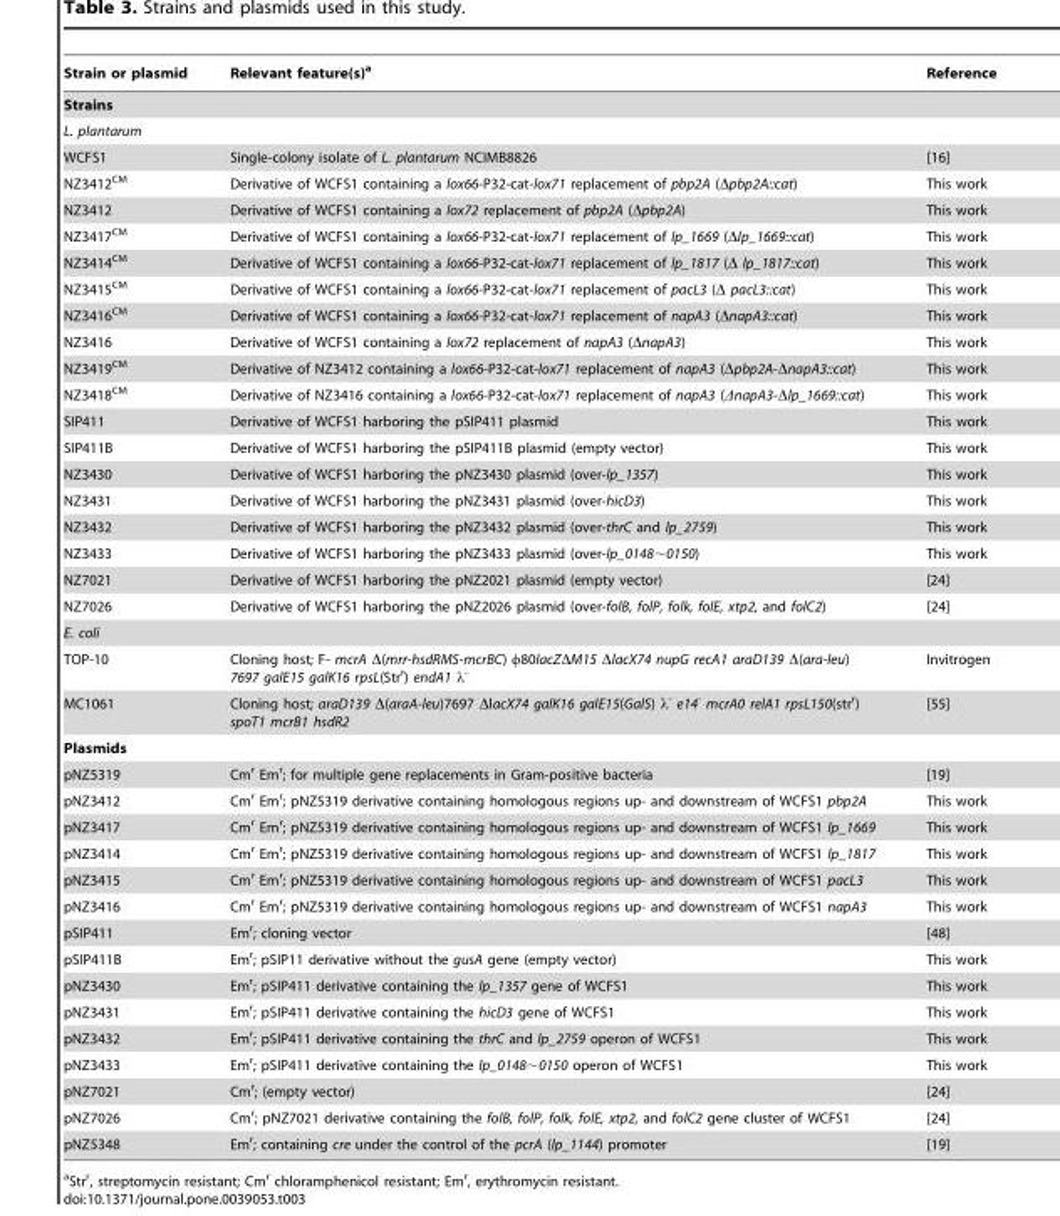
<table><thead><tr><td>Strain or plasmid</td><td>Relevant feature(s)<sup>a</sup></td><td>Reference</td></tr></thead><tbody><tr><td colspan="3">Strains</td></tr><tr><td colspan="3">L. plantarum</td></tr><tr><td>WCFS1</td><td>Single-colony isolate of L. plantarum NCIMB8826</td><td>[16]</td></tr><tr><td>NZ3412<sup>CM</sup></td><td>Derivative of WCFS1 containing a lox66-P32-cat-lox71 replacement of pbp2A (Δpbp2A::cat)</td><td>This work</td></tr><tr><td>NZ3412</td><td>Derivative of WCFS1 containing a lox72 replacement of pbp2A (Δpbp2A)</td><td>This work</td></tr><tr><td>NZ3417<sup>CM</sup></td><td>Derivative of WCFS1 containing a lox66-P32-cat-lox71 replacement of lp_1669 (Δlp_1669::cat)</td><td>This work</td></tr><tr><td>NZ3414<sup>CM</sup></td><td>Derivative of WCFS1 containing a lox66-P32-cat-lox71 replacement of lp_1817 (Δ lp_1817::cat)</td><td>This work</td></tr><tr><td>NZ3415<sup>CM</sup></td><td>Derivative of WCFS1 containing a lox66-P32-cat-lox71 replacement of pacL3 (Δ pacL3::cat)</td><td>This work</td></tr><tr><td>NZ3416<sup>CM</sup></td><td>Derivative of WCFS1 containing a lox66-P32-cat-lox71 replacement of napA3 (ΔnapA3::cat)</td><td>This work</td></tr><tr><td>NZ3416</td><td>Derivative of WCFS1 containing a lox72 replacement of napA3 (ΔnapA3)</td><td>This work</td></tr><tr><td>NZ3419<sup>CM</sup></td><td>Derivative of NZ3412 containing a lox66-P32-cat-lox71 replacement of napA3 (Δpbp2A-ΔnapA3::cat)</td><td>This work</td></tr><tr><td>NZ3418<sup>CM</sup></td><td>Derivative of NZ3416 containing a lox66-P32-cat-lox71 replacement of napA3 (ΔnapA3-Δlp_1669::cat)</td><td>This work</td></tr><tr><td>SIP411</td><td>Derivative of WCFS1 harboring the pSIP411 plasmid</td><td>This work</td></tr><tr><td>SIP411B</td><td>Derivative of WCFS1 harboring the pSIP411B plasmid (empty vector)</td><td>This work</td></tr><tr><td>NZ3430</td><td>Derivative of WCFS1 harboring the pNZ3430 plasmid (over-lp_1357)</td><td>This work</td></tr><tr><td>NZ3431</td><td>Derivative of WCFS1 harboring the pNZ3431 plasmid (over-hicD3)</td><td>This work</td></tr><tr><td>NZ3432</td><td>Derivative of WCFS1 harboring the pNZ3432 plasmid (over-thrC and lp_2759)</td><td>This work</td></tr><tr><td>NZ3433</td><td>Derivative of WCFS1 harboring the pNZ3433 plasmid (over-lp_0148∼0150)</td><td>This work</td></tr><tr><td>NZ7021</td><td>Derivative of WCFS1 harboring the pNZ2021 plasmid (empty vector)</td><td>[24]</td></tr><tr><td>NZ7026</td><td>Derivative of WCFS1 harboring the pNZ2026 plasmid (over-folB, folP, folk, folE, xtp2, and folC2)</td><td>[24]</td></tr><tr><td colspan="3">E. coli</td></tr><tr><td>TOP-10</td><td>Cloning host; F- mcrA Δ(mrr-hsdRMS-mcrBC) φ80lacZΔM15 ΔlacX74 nupG recA1 araD139 Δ(ara-leu) 7697 galE15 galK16 rpsL(Str<sup>r</sup>) endA1 λ<sup>-</sup></td><td>Invitrogen</td></tr><tr><td>MC1061</td><td>Cloning host; araD139 Δ(araA-leu)7697 ΔlacX74 galK16 galE15(GalS) λ<sup>-</sup> e14<sup>-</sup> mcrA0 relA1 rpsL150(str<sup>r</sup>) spoT1 mcrB1 hsdR2</td><td>[55]</td></tr><tr><td colspan="3">Plasmids</td></tr><tr><td>pNZ5319</td><td>Cm<sup>r</sup> Em<sup>r</sup>; for multiple gene replacements in Gram-positive bacteria</td><td>[19]</td></tr><tr><td>pNZ3412</td><td>Cm<sup>r</sup> Em<sup>r</sup>; pNZ5319 derivative containing homologous regions up- and downstream of WCFS1 pbp2A</td><td>This work</td></tr><tr><td>pNZ3417</td><td>Cm<sup>r</sup> Em<sup>r</sup>; pNZ5319 derivative containing homologous regions up- and downstream of WCFS1 lp_1669</td><td>This work</td></tr><tr><td>pNZ3414</td><td>Cm<sup>r</sup> Em<sup>r</sup>; pNZ5319 derivative containing homologous regions up- and downstream of WCFS1 lp_1817</td><td>This work</td></tr><tr><td>pNZ3415</td><td>Cm<sup>r</sup> Em<sup>r</sup>; pNZ5319 derivative containing homologous regions up- and downstream of WCFS1 pacL3</td><td>This work</td></tr><tr><td>pNZ3416</td><td>Cm<sup>r</sup> Em<sup>r</sup>; pNZ5319 derivative containing homologous regions up- and downstream of WCFS1 napA3</td><td>This work</td></tr><tr><td>pSIP411</td><td>Em<sup>r</sup>; cloning vector</td><td>[48]</td></tr><tr><td>pSIP411B</td><td>Em<sup>r</sup>; pSIP11 derivative without the gusA gene (empty vector)</td><td>This work</td></tr><tr><td>pNZ3430</td><td>Em<sup>r</sup>; pSIP411 derivative containing the lp_1357 gene of WCFS1</td><td>This work</td></tr><tr><td>pNZ3431</td><td>Em<sup>r</sup>; pSIP411 derivative containing the hicD3 gene of WCFS1</td><td>This work</td></tr><tr><td>pNZ3432</td><td>Em<sup>r</sup>; pSIP411 derivative containing the thrC and lp_2759 operon of WCFS1</td><td>This work</td></tr><tr><td>pNZ3433</td><td>Em<sup>r</sup>; pSIP411 derivative containing the lp_0148∼0150 operon of WCFS1</td><td>This work</td></tr><tr><td>pNZ7021</td><td>Cm<sup>r</sup>; (empty vector)</td><td>[24]</td></tr><tr><td>pNZ7026</td><td>Cm<sup>r</sup>; pNZ7021 derivative containing the folB, folP, folk, folE, xtp2, and folC2 gene cluster of WCFS1</td><td>[24]</td></tr><tr><td>pNZ5348</td><td>Em<sup>r</sup>; containing cre under the control of the pcrA (lp_1144) promoter</td><td>[19]</td></tr></tbody></table>